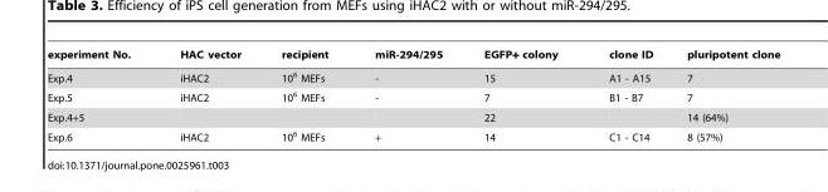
<table><thead><tr><td>experiment No.</td><td>HAC vector</td><td>recipient</td><td>miR-294/295</td><td>EGFP+ colony</td><td>clone ID</td><td>pluripotent clone</td></tr></thead><tbody><tr><td>Exp.4</td><td>iHAC2</td><td>10<sup>6</sup> MEFs</td><td>-</td><td>15</td><td>A1 - A15</td><td>7</td></tr><tr><td>Exp.5</td><td>iHAC2</td><td>10<sup>6</sup> MEFs</td><td>-</td><td>7</td><td>B1 - B7</td><td>7</td></tr><tr><td>Exp.4+5</td><td></td><td></td><td></td><td>22</td><td></td><td>14 (64%)</td></tr><tr><td>Exp.6</td><td>iHAC2</td><td>10<sup>6</sup> MEFs</td><td>+</td><td>14</td><td>C1 - C14</td><td>8 (57%)</td></tr></tbody></table>